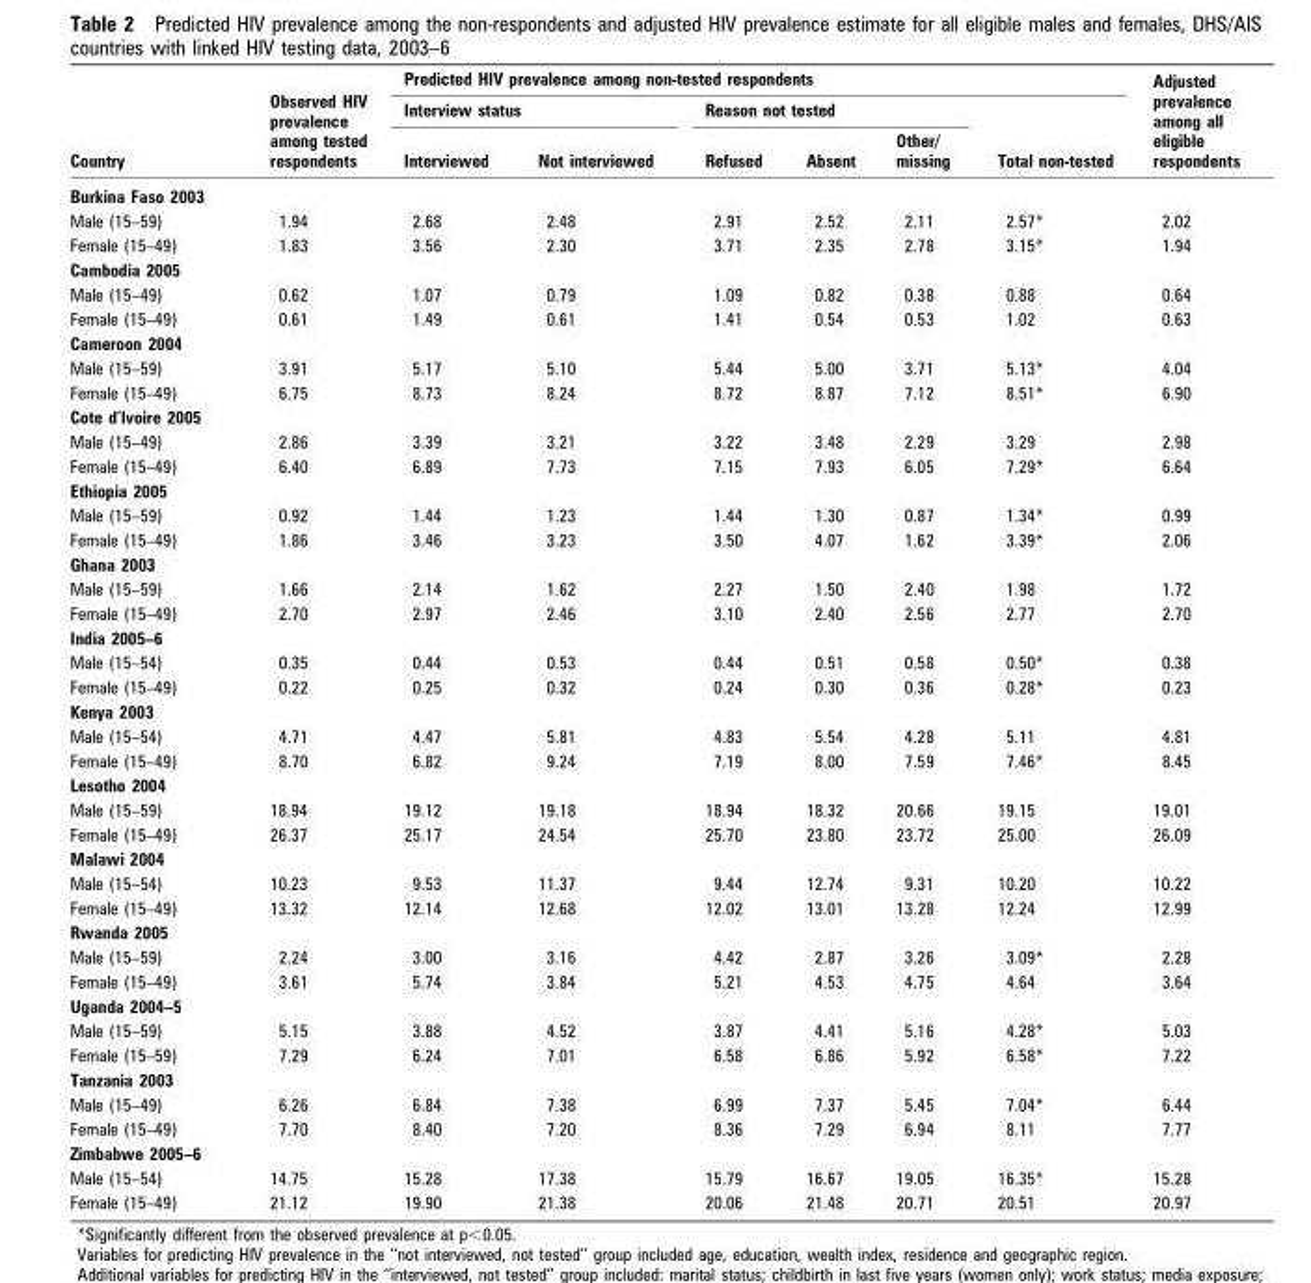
<table><thead><tr><td rowspan="3">Country</td><td rowspan="3">Observed HIV prevalence among tested respondents</td><td colspan="6">Predicted HIV prevalence among non-tested respondents</td><td rowspan="3">Adjusted prevalence among all eligible respondents</td></tr><tr><td colspan="2">Interview status</td><td colspan="3">Reason not tested</td><td rowspan="2">Total non-tested</td></tr><tr><td>Interviewed</td><td>Not interviewed</td><td>Refused</td><td>Absent</td><td>Other/ missing</td></tr></thead><tbody><tr><td colspan="9">Burkina Faso 2003</td></tr><tr><td>Male (15–59)</td><td>1.94</td><td>2.68</td><td>2.48</td><td>2.91</td><td>2.52</td><td>2.11</td><td>2.57*</td><td>2.02</td></tr><tr><td>Female (15–49)</td><td>1.83</td><td>3.56</td><td>2.30</td><td>3.71</td><td>2.35</td><td>2.78</td><td>3.15*</td><td>1.94</td></tr><tr><td colspan="9">Cambodia 2005</td></tr><tr><td>Male (15–49)</td><td>0.62</td><td>1.07</td><td>0.79</td><td>1.09</td><td>0.82</td><td>0.38</td><td>0.88</td><td>0.64</td></tr><tr><td>Female (15–49)</td><td>0.61</td><td>1.49</td><td>0.61</td><td>1.41</td><td>0.54</td><td>0.53</td><td>1.02</td><td>0.63</td></tr><tr><td colspan="9">Cameroon 2004</td></tr><tr><td>Male (15–59)</td><td>3.91</td><td>5.17</td><td>5.10</td><td>5.44</td><td>5.00</td><td>3.71</td><td>5.13*</td><td>4.04</td></tr><tr><td>Female (15–49)</td><td>6.75</td><td>8.73</td><td>8.24</td><td>8.72</td><td>8.87</td><td>7.12</td><td>8.51*</td><td>6.90</td></tr><tr><td colspan="9">Cote d’Ivoire 2005</td></tr><tr><td>Male (15–49)</td><td>2.86</td><td>3.39</td><td>3.21</td><td>3.22</td><td>3.48</td><td>2.29</td><td>3.29</td><td>2.98</td></tr><tr><td>Female (15–49)</td><td>6.40</td><td>6.89</td><td>7.73</td><td>7.15</td><td>7.93</td><td>6.05</td><td>7.29*</td><td>6.64</td></tr><tr><td colspan="9">Ethiopia 2005</td></tr><tr><td>Male (15–59)</td><td>0.92</td><td>1.44</td><td>1.23</td><td>1.44</td><td>1.30</td><td>0.87</td><td>1.34*</td><td>0.99</td></tr><tr><td>Female (15–49)</td><td>1.86</td><td>3.46</td><td>3.23</td><td>3.50</td><td>4.07</td><td>1.62</td><td>3.39*</td><td>2.06</td></tr><tr><td colspan="9">Ghana 2003</td></tr><tr><td>Male (15–59)</td><td>1.66</td><td>2.14</td><td>1.62</td><td>2.27</td><td>1.50</td><td>2.40</td><td>1.98</td><td>1.72</td></tr><tr><td>Female (15–49)</td><td>2.70</td><td>2.97</td><td>2.46</td><td>3.10</td><td>2.40</td><td>2.56</td><td>2.77</td><td>2.70</td></tr><tr><td colspan="9">India 2005–6</td></tr><tr><td>Male (15–54)</td><td>0.35</td><td>0.44</td><td>0.53</td><td>0.44</td><td>0.51</td><td>0.58</td><td>0.50*</td><td>0.38</td></tr><tr><td>Female (15–49)</td><td>0.22</td><td>0.25</td><td>0.32</td><td>0.24</td><td>0.30</td><td>0.36</td><td>0.28*</td><td>0.23</td></tr><tr><td colspan="9">Kenya 2003</td></tr><tr><td>Male (15–54)</td><td>4.71</td><td>4.47</td><td>5.81</td><td>4.83</td><td>5.54</td><td>4.28</td><td>5.11</td><td>4.81</td></tr><tr><td>Female (15–49)</td><td>8.70</td><td>6.82</td><td>9.24</td><td>7.19</td><td>8.00</td><td>7.59</td><td>7.46*</td><td>8.45</td></tr><tr><td colspan="9">Lesotho 2004</td></tr><tr><td>Male (15–59)</td><td>18.94</td><td>19.12</td><td>19.18</td><td>18.94</td><td>18.32</td><td>20.66</td><td>19.15</td><td>19.01</td></tr><tr><td>Female (15–49)</td><td>26.37</td><td>25.17</td><td>24.54</td><td>25.70</td><td>23.80</td><td>23.72</td><td>25.00</td><td>26.09</td></tr><tr><td colspan="9">Malawi 2004</td></tr><tr><td>Male (15–54)</td><td>10.23</td><td>9.53</td><td>11.37</td><td>9.44</td><td>12.74</td><td>9.31</td><td>10.20</td><td>10.22</td></tr><tr><td>Female (15–49)</td><td>13.32</td><td>12.14</td><td>12.68</td><td>12.02</td><td>13.01</td><td>13.28</td><td>12.24</td><td>12.99</td></tr><tr><td colspan="9">Rwanda 2005</td></tr><tr><td>Male (15–59)</td><td>2.24</td><td>3.00</td><td>3.16</td><td>4.42</td><td>2.87</td><td>3.26</td><td>3.09*</td><td>2.28</td></tr><tr><td>Female (15–49)</td><td>3.61</td><td>5.74</td><td>3.84</td><td>5.21</td><td>4.53</td><td>4.75</td><td>4.64</td><td>3.64</td></tr><tr><td colspan="9">Uganda 2004–5</td></tr><tr><td>Male (15–59)</td><td>5.15</td><td>3.88</td><td>4.52</td><td>3.87</td><td>4.41</td><td>5.16</td><td>4.28*</td><td>5.03</td></tr><tr><td>Female (15–59)</td><td>7.29</td><td>6.24</td><td>7.01</td><td>6.58</td><td>6.86</td><td>5.92</td><td>6.58*</td><td>7.22</td></tr><tr><td colspan="9">Tanzania 2003</td></tr><tr><td>Male (15–49)</td><td>6.26</td><td>6.84</td><td>7.38</td><td>6.99</td><td>7.37</td><td>5.45</td><td>7.04*</td><td>6.44</td></tr><tr><td>Female (15–49)</td><td>7.70</td><td>8.40</td><td>7.20</td><td>8.36</td><td>7.29</td><td>6.94</td><td>8.11</td><td>7.77</td></tr><tr><td colspan="9">Zimbabwe 2005–6</td></tr><tr><td>Male (15–54)</td><td>14.75</td><td>15.28</td><td>17.38</td><td>15.79</td><td>16.67</td><td>19.05</td><td>16.35*</td><td>15.28</td></tr><tr><td>Female (15–49)</td><td>21.12</td><td>19.90</td><td>21.38</td><td>20.06</td><td>21.48</td><td>20.71</td><td>20.51</td><td>20.97</td></tr></tbody></table>